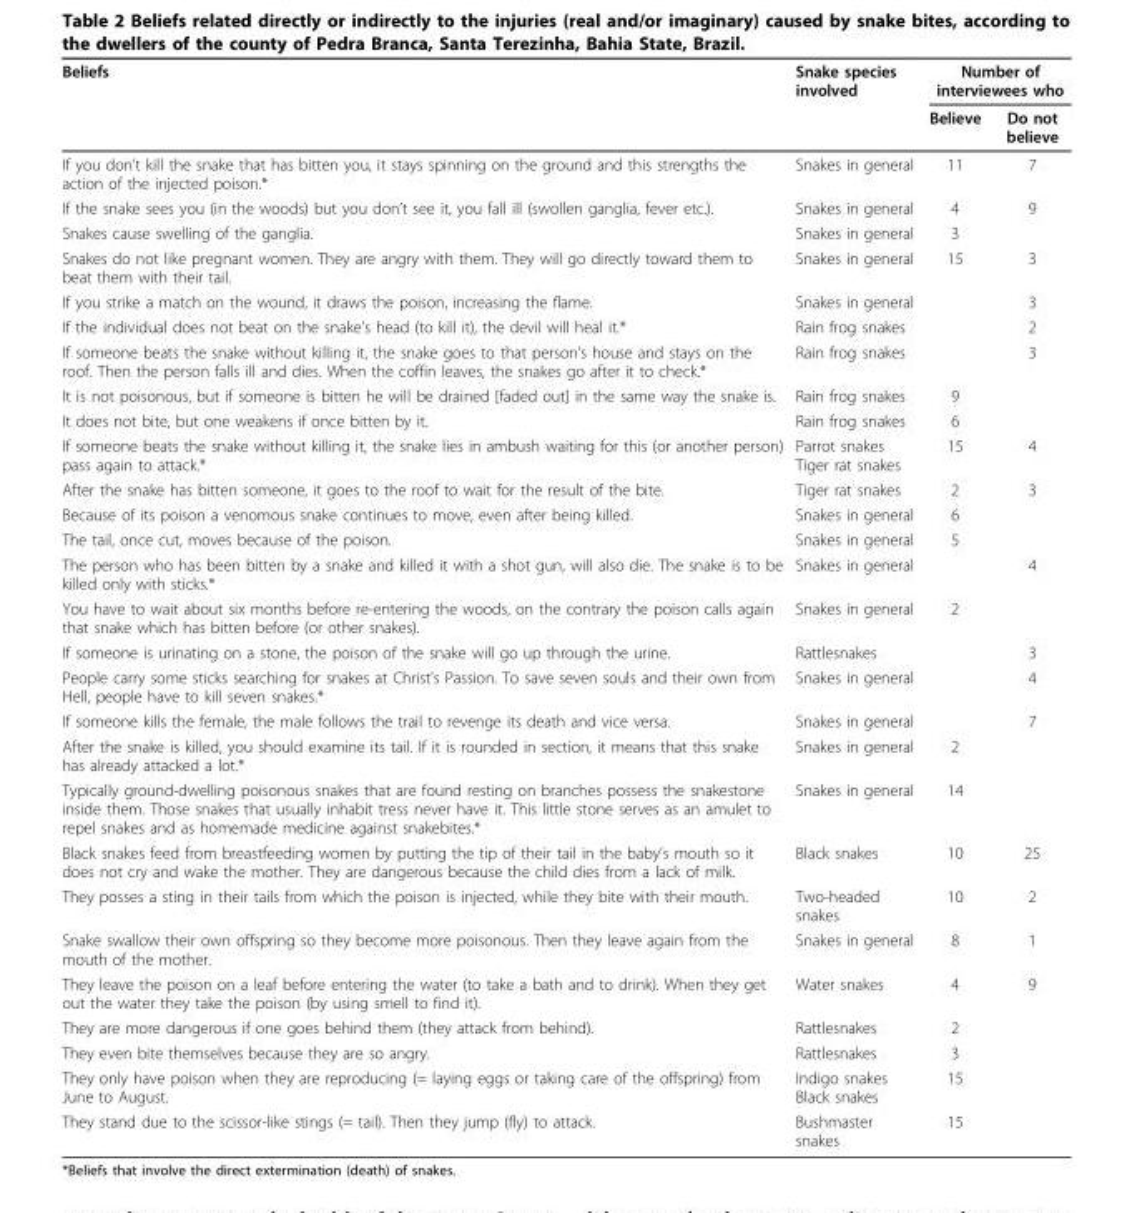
<table><thead><tr><td rowspan="2">Beliefs</td><td rowspan="2">Snake species involved</td><td colspan="2">Number of interviewees who</td></tr><tr><td>Believe</td><td>Do not believe</td></tr></thead><tbody><tr><td>If you don’t kill the snake that has bitten you, it stays spinning on the ground and this strengths the action of the injected poison.*</td><td>Snakes in general</td><td>11</td><td>7</td></tr><tr><td>If the snake sees you (in the woods) but you don’t see it, you fall ill (swollen ganglia, fever etc.).</td><td>Snakes in general</td><td>4</td><td>9</td></tr><tr><td>Snakes cause swelling of the ganglia.</td><td>Snakes in general</td><td>3</td><td></td></tr><tr><td>Snakes do not like pregnant women. They are angry with them. They will go directly toward them to beat them with their tail.</td><td>Snakes in general</td><td>15</td><td>3</td></tr><tr><td>If you strike a match on the wound, it draws the poison, increasing the flame.</td><td>Snakes in general</td><td></td><td>3</td></tr><tr><td>If the individual does not beat on the snake’s head (to kill it), the devil will heal it.*</td><td>Rain frog snakes</td><td></td><td>2</td></tr><tr><td>If someone beats the snake without killing it, the snake goes to that person’s house and stays on the roof. Then the person falls ill and dies. When the coffin leaves, the snakes go after it to check.*</td><td>Rain frog snakes</td><td></td><td>3</td></tr><tr><td>It is not poisonous, but if someone is bitten he will be drained [faded out] in the same way the snake is.</td><td>Rain frog snakes</td><td>9</td><td></td></tr><tr><td>It does not bite, but one weakens if once bitten by it.</td><td>Rain frog snakes</td><td>6</td><td></td></tr><tr><td>If someone beats the snake without killing it, the snake lies in ambush waiting for this (or another person) pass again to attack.*</td><td>Parrot snakes Tiger rat snakes</td><td>15</td><td>4</td></tr><tr><td>After the snake has bitten someone, it goes to the roof to wait for the result of the bite.</td><td>Tiger rat snakes</td><td>2</td><td>3</td></tr><tr><td>Because of its poison a venomous snake continues to move, even after being killed.</td><td>Snakes in general</td><td>6</td><td></td></tr><tr><td>The tail, once cut, moves because of the poison.</td><td>Snakes in general</td><td>5</td><td></td></tr><tr><td>The person who has been bitten by a snake and killed it with a shot gun, will also die. The snake is to be killed only with sticks.*</td><td>Snakes in general</td><td></td><td>4</td></tr><tr><td>You have to wait about six months before re-entering the woods, on the contrary the poison calls again that snake which has bitten before (or other snakes).</td><td>Snakes in general</td><td>2</td><td></td></tr><tr><td>If someone is urinating on a stone, the poison of the snake will go up through the urine.</td><td>Rattlesnakes</td><td></td><td>3</td></tr><tr><td>People carry some sticks searching for snakes at Christ’s Passion. To save seven souls and their own from Hell, people have to kill seven snakes.*</td><td>Snakes in general</td><td></td><td>4</td></tr><tr><td>If someone kills the female, the male follows the trail to revenge its death and vice versa.</td><td>Snakes in general</td><td></td><td>7</td></tr><tr><td>After the snake is killed, you should examine its tail. If it is rounded in section, it means that this snake has already attacked a lot.*</td><td>Snakes in general</td><td>2</td><td></td></tr><tr><td>Typically ground-dwelling poisonous snakes that are found resting on branches possess the snakestone inside them. Those snakes that usually inhabit tress never have it. This little stone serves as an amulet to repel snakes and as homemade medicine against snakebites.*</td><td>Snakes in general</td><td>14</td><td></td></tr><tr><td>Black snakes feed from breastfeeding women by putting the tip of their tail in the baby’s mouth so it does not cry and wake the mother. They are dangerous because the child dies from a lack of milk.</td><td>Black snakes</td><td>10</td><td>25</td></tr><tr><td>They posses a sting in their tails from which the poison is injected, while they bite with their mouth.</td><td>Two-headed snakes</td><td>10</td><td>2</td></tr><tr><td>Snake swallow their own offspring so they become more poisonous. Then they leave again from the mouth of the mother.</td><td>Snakes in general</td><td>8</td><td>1</td></tr><tr><td>They leave the poison on a leaf before entering the water (to take a bath and to drink). When they get out the water they take the poison (by using smell to find it).</td><td>Water snakes</td><td>4</td><td>9</td></tr><tr><td>They are more dangerous if one goes behind them (they attack from behind).</td><td>Rattlesnakes</td><td>2</td><td></td></tr><tr><td>They even bite themselves because they are so angry.</td><td>Rattlesnakes</td><td>3</td><td></td></tr><tr><td>They only have poison when they are reproducing (= laying eggs or taking care of the offspring) from June to August.</td><td>Indigo snakes Black snakes</td><td>15</td><td></td></tr><tr><td>They stand due to the scissor-like stings (= tail). Then they jump (fly) to attack.</td><td>Bushmaster snakes</td><td>15</td><td></td></tr></tbody></table>